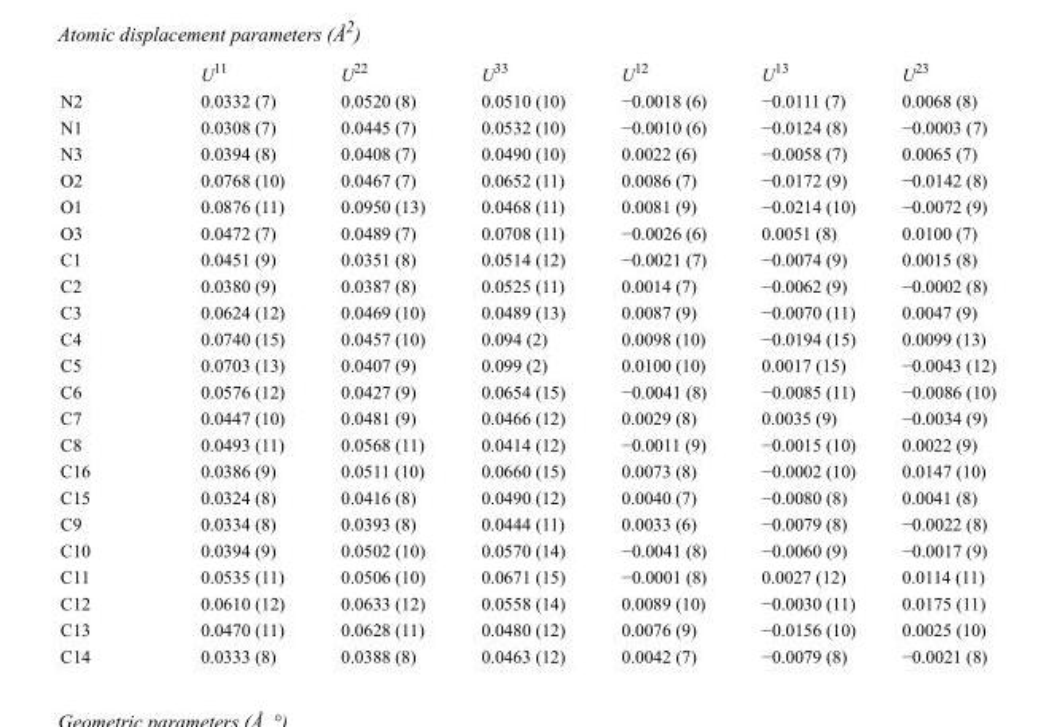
<table><thead><tr><td></td><td>U<sup>11</sup></td><td>U<sup>22</sup></td><td>U<sup>33</sup></td><td>U<sup>12</sup></td><td>U<sup>13</sup></td><td>U<sup>23</sup></td></tr></thead><tbody><tr><td>N2</td><td>0.0332 (7)</td><td>0.0520 (8)</td><td>0.0510 (10)</td><td>−0.0018 (6)</td><td>−0.0111 (7)</td><td>0.0068 (8)</td></tr><tr><td>N1</td><td>0.0308 (7)</td><td>0.0445 (7)</td><td>0.0532 (10)</td><td>−0.0010 (6)</td><td>−0.0124 (8)</td><td>−0.0003 (7)</td></tr><tr><td>N3</td><td>0.0394 (8)</td><td>0.0408 (7)</td><td>0.0490 (10)</td><td>0.0022 (6)</td><td>−0.0058 (7)</td><td>0.0065 (7)</td></tr><tr><td>O2</td><td>0.0768 (10)</td><td>0.0467 (7)</td><td>0.0652 (11)</td><td>0.0086 (7)</td><td>−0.0172 (9)</td><td>−0.0142 (8)</td></tr><tr><td>O1</td><td>0.0876 (11)</td><td>0.0950 (13)</td><td>0.0468 (11)</td><td>0.0081 (9)</td><td>−0.0214 (10)</td><td>−0.0072 (9)</td></tr><tr><td>O3</td><td>0.0472 (7)</td><td>0.0489 (7)</td><td>0.0708 (11)</td><td>−0.0026 (6)</td><td>0.0051 (8)</td><td>0.0100 (7)</td></tr><tr><td>C1</td><td>0.0451 (9)</td><td>0.0351 (8)</td><td>0.0514 (12)</td><td>−0.0021 (7)</td><td>−0.0074 (9)</td><td>0.0015 (8)</td></tr><tr><td>C2</td><td>0.0380 (9)</td><td>0.0387 (8)</td><td>0.0525 (11)</td><td>0.0014 (7)</td><td>−0.0062 (9)</td><td>−0.0002 (8)</td></tr><tr><td>C3</td><td>0.0624 (12)</td><td>0.0469 (10)</td><td>0.0489 (13)</td><td>0.0087 (9)</td><td>−0.0070 (11)</td><td>0.0047 (9)</td></tr><tr><td>C4</td><td>0.0740 (15)</td><td>0.0457 (10)</td><td>0.094 (2)</td><td>0.0098 (10)</td><td>−0.0194 (15)</td><td>0.0099 (13)</td></tr><tr><td>C5</td><td>0.0703 (13)</td><td>0.0407 (9)</td><td>0.099 (2)</td><td>0.0100 (10)</td><td>0.0017 (15)</td><td>−0.0043 (12)</td></tr><tr><td>C6</td><td>0.0576 (12)</td><td>0.0427 (9)</td><td>0.0654 (15)</td><td>−0.0041 (8)</td><td>−0.0085 (11)</td><td>−0.0086 (10)</td></tr><tr><td>C7</td><td>0.0447 (10)</td><td>0.0481 (9)</td><td>0.0466 (12)</td><td>0.0029 (8)</td><td>0.0035 (9)</td><td>−0.0034 (9)</td></tr><tr><td>C8</td><td>0.0493 (11)</td><td>0.0568 (11)</td><td>0.0414 (12)</td><td>−0.0011 (9)</td><td>−0.0015 (10)</td><td>0.0022 (9)</td></tr><tr><td>C16</td><td>0.0386 (9)</td><td>0.0511 (10)</td><td>0.0660 (15)</td><td>0.0073 (8)</td><td>−0.0002 (10)</td><td>0.0147 (10)</td></tr><tr><td>C15</td><td>0.0324 (8)</td><td>0.0416 (8)</td><td>0.0490 (12)</td><td>0.0040 (7)</td><td>−0.0080 (8)</td><td>0.0041 (8)</td></tr><tr><td>C9</td><td>0.0334 (8)</td><td>0.0393 (8)</td><td>0.0444 (11)</td><td>0.0033 (6)</td><td>−0.0079 (8)</td><td>−0.0022 (8)</td></tr><tr><td>C10</td><td>0.0394 (9)</td><td>0.0502 (10)</td><td>0.0570 (14)</td><td>−0.0041 (8)</td><td>−0.0060 (9)</td><td>−0.0017 (9)</td></tr><tr><td>C11</td><td>0.0535 (11)</td><td>0.0506 (10)</td><td>0.0671 (15)</td><td>−0.0001 (8)</td><td>0.0027 (12)</td><td>0.0114 (11)</td></tr><tr><td>C12</td><td>0.0610 (12)</td><td>0.0633 (12)</td><td>0.0558 (14)</td><td>0.0089 (10)</td><td>−0.0030 (11)</td><td>0.0175 (11)</td></tr><tr><td>C13</td><td>0.0470 (11)</td><td>0.0628 (11)</td><td>0.0480 (12)</td><td>0.0076 (9)</td><td>−0.0156 (10)</td><td>0.0025 (10)</td></tr><tr><td>C14</td><td>0.0333 (8)</td><td>0.0388 (8)</td><td>0.0463 (12)</td><td>0.0042 (7)</td><td>−0.0079 (8)</td><td>−0.0021 (8)</td></tr></tbody></table>